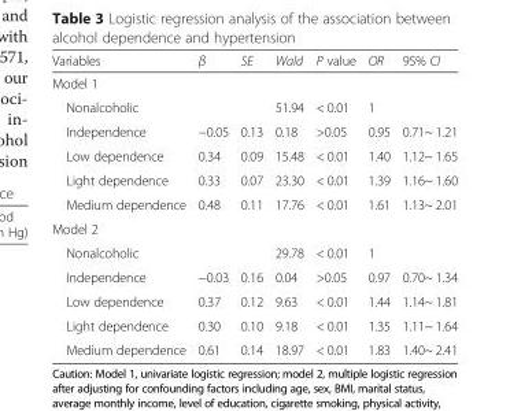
<table><thead><tr><td>Variables</td><td>β</td><td>SE</td><td>Wald</td><td>P value</td><td>OR</td><td>95% CI</td></tr></thead><tbody><tr><td colspan="7">Model 1</td></tr><tr><td>Nonalcoholic</td><td></td><td></td><td>51.94</td><td>&lt; 0.01</td><td>1</td><td></td></tr><tr><td>Independence</td><td>−0.05</td><td>0.13</td><td>0.18</td><td>&gt;0.05</td><td>0.95</td><td>0.71~ 1.21</td></tr><tr><td>Low dependence</td><td>0.34</td><td>0.09</td><td>15.48</td><td>&lt; 0.01</td><td>1.40</td><td>1.12~ 1.65</td></tr><tr><td>Light dependence</td><td>0.33</td><td>0.07</td><td>23.30</td><td>&lt; 0.01</td><td>1.39</td><td>1.16~ 1.60</td></tr><tr><td>Medium dependence</td><td>0.48</td><td>0.11</td><td>17.76</td><td>&lt; 0.01</td><td>1.61</td><td>1.13~ 2.01</td></tr><tr><td colspan="7">Model 2</td></tr><tr><td>Nonalcoholic</td><td></td><td></td><td>29.78</td><td>&lt; 0.01</td><td>1</td><td></td></tr><tr><td>Independence</td><td>−0.03</td><td>0.16</td><td>0.04</td><td>&gt;0.05</td><td>0.97</td><td>0.70~ 1.34</td></tr><tr><td>Low dependence</td><td>0.37</td><td>0.12</td><td>9.63</td><td>&lt; 0.01</td><td>1.44</td><td>1.14~ 1.81</td></tr><tr><td>Light dependence</td><td>0.30</td><td>0.10</td><td>9.18</td><td>&lt; 0.01</td><td>1.35</td><td>1.11~ 1.64</td></tr><tr><td>Medium dependence</td><td>0.61</td><td>0.14</td><td>18.97</td><td>&lt; 0.01</td><td>1.83</td><td>1.40~ 2.41</td></tr></tbody></table>